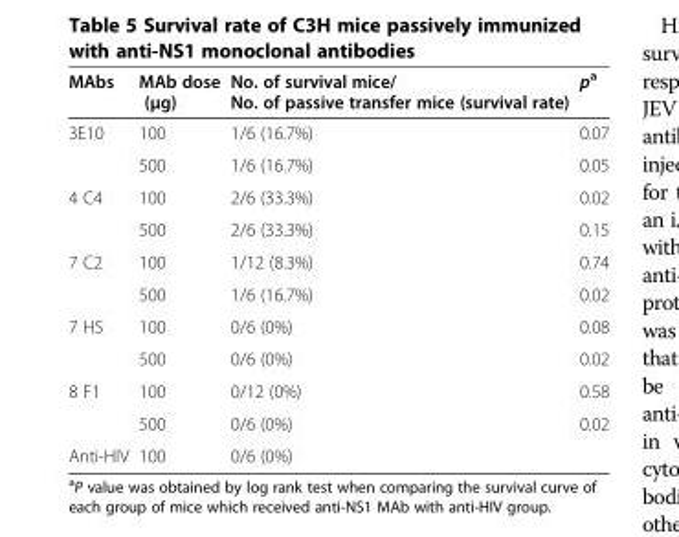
<table><thead><tr><td>MAbs</td><td>MAb dose (μg)</td><td>No. of survival mice/ No. of passive transfer mice (survival rate)</td><td>p<sup>a</sup></td></tr></thead><tbody><tr><td rowspan="2">3E10</td><td>100</td><td>1/6 (16.7%)</td><td>0.07</td></tr><tr><td>500</td><td>1/6 (16.7%)</td><td>0.05</td></tr><tr><td rowspan="2">4 C4</td><td>100</td><td>2/6 (33.3%)</td><td>0.02</td></tr><tr><td>500</td><td>2/6 (33.3%)</td><td>0.15</td></tr><tr><td rowspan="2">7 C2</td><td>100</td><td>1/12 (8.3%)</td><td>0.74</td></tr><tr><td>500</td><td>1/6 (16.7%)</td><td>0.02</td></tr><tr><td rowspan="2">7 H5</td><td>100</td><td>0/6 (0%)</td><td>0.08</td></tr><tr><td>500</td><td>0/6 (0%)</td><td>0.02</td></tr><tr><td rowspan="2">8 F1</td><td>100</td><td>0/12 (0%)</td><td>0.58</td></tr><tr><td>500</td><td>0/6 (0%)</td><td>0.02</td></tr><tr><td>Anti-HIV</td><td>100</td><td>0/6 (0%)</td><td></td></tr></tbody></table>